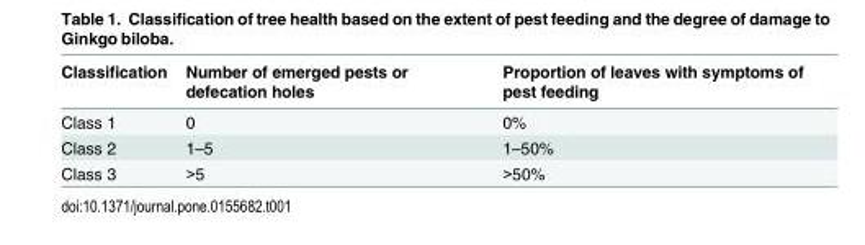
<table><thead><tr><td>Classification</td><td>Number of emerged pests or defecation holes</td><td>Proportion of leaves with symptoms of pest feeding</td></tr></thead><tbody><tr><td>Class 1</td><td>0</td><td>0%</td></tr><tr><td>Class 2</td><td>1–5</td><td>1–50%</td></tr><tr><td>Class 3</td><td>&gt;5</td><td>&gt;50%</td></tr></tbody></table>